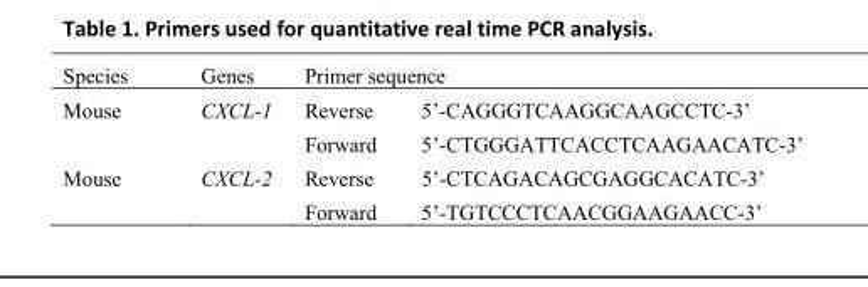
<table><tbody><tr><td>Species</td><td>Genes</td><td colspan="2">Primer sequence</td></tr><tr><td rowspan="2">Mouse</td><td>CXCL-1</td><td>Reverse</td><td>5’-CAGGGTCAAGGCAAGCCTC-3’</td></tr><tr><td></td><td>Forward</td><td>5’-CTGGGATTCACCTCAAGAACATC-3’</td></tr><tr><td rowspan="2">Mouse</td><td>CXCL-2</td><td>Reverse</td><td>5’-CTCAGACAGCGAGGCACATC-3’</td></tr><tr><td></td><td>Forward</td><td>5’-TGTCCCTCAACGGAAGAACC-3’</td></tr></tbody></table>